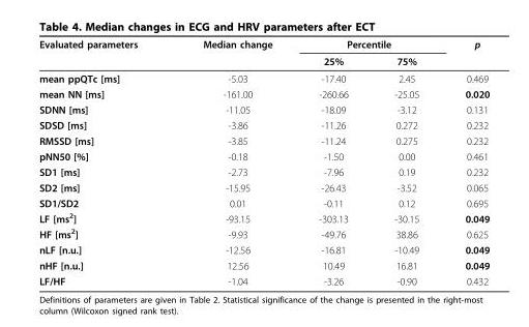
<table><thead><tr><td rowspan="2">Evaluated parameters</td><td rowspan="2">Median change</td><td colspan="2">Percentile</td><td rowspan="2">p</td></tr><tr><td>25%</td><td>75%</td></tr></thead><tbody><tr><td>mean ppQTc [ms]</td><td>-5.03</td><td>-17.40</td><td>2.45</td><td>0.469</td></tr><tr><td>mean NN [ms]</td><td>-161.00</td><td>-260.66</td><td>-25.05</td><td>0.020</td></tr><tr><td>SDNN [ms]</td><td>-11.05</td><td>-18.09</td><td>-3.12</td><td>0.131</td></tr><tr><td>SDSD [ms]</td><td>-3.86</td><td>-11.26</td><td>0.272</td><td>0.232</td></tr><tr><td>RMSSD [ms]</td><td>-3.85</td><td>-11.24</td><td>0.275</td><td>0.232</td></tr><tr><td>pNN50 [%]</td><td>-0.18</td><td>-1.50</td><td>0.00</td><td>0.461</td></tr><tr><td>SD1 [ms]</td><td>-2.73</td><td>-7.96</td><td>0.19</td><td>0.232</td></tr><tr><td>SD2 [ms]</td><td>-15.95</td><td>-26.43</td><td>-3.52</td><td>0.065</td></tr><tr><td>SD1/SD2</td><td>0.01</td><td>-0.11</td><td>0.12</td><td>0.695</td></tr><tr><td>LF [ms<sup>2</sup>]</td><td>-93.15</td><td>-303.13</td><td>-30.15</td><td>0.049</td></tr><tr><td>HF [ms<sup>2</sup>]</td><td>-9.93</td><td>-49.76</td><td>38.86</td><td>0.625</td></tr><tr><td>nLF [n.u.]</td><td>-12.56</td><td>-16.81</td><td>-10.49</td><td>0.049</td></tr><tr><td>nHF [n.u.]</td><td>12.56</td><td>10.49</td><td>16.81</td><td>0.049</td></tr><tr><td>LF/HF</td><td>-1.04</td><td>-3.26</td><td>-0.90</td><td>0.432</td></tr></tbody></table>